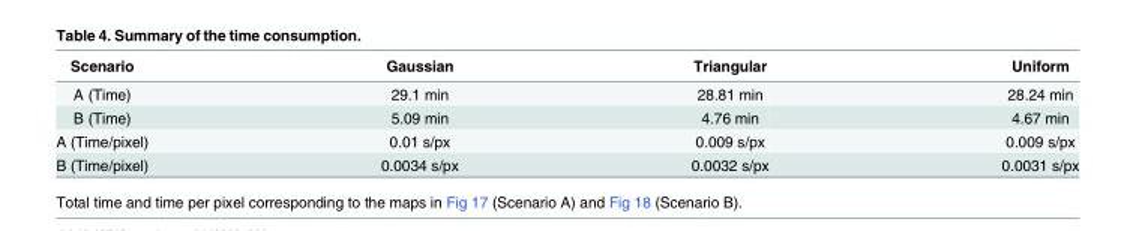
<table><thead><tr><td>Scenario</td><td>Gaussian</td><td>Triangular</td><td>Uniform</td></tr></thead><tbody><tr><td>A (Time)</td><td>29.1 min</td><td>28.81 min</td><td>28.24 min</td></tr><tr><td>B (Time)</td><td>5.09 min</td><td>4.76 min</td><td>4.67 min</td></tr><tr><td>A (Time/pixel)</td><td>0.01 s/px</td><td>0.009 s/px</td><td>0.009 s/px</td></tr><tr><td>B (Time/pixel)</td><td>0.0034 s/px</td><td>0.0032 s/px</td><td>0.0031 s/px</td></tr></tbody></table>